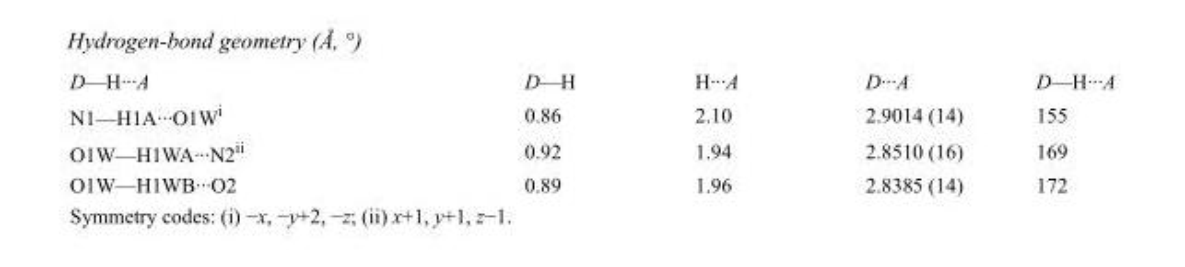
<table><tbody><tr><td>D—H···A</td><td>D—H</td><td>H···A</td><td>D···A</td><td>D—H···A</td></tr><tr><td>N1—H1A···O1W<sup>i</sup></td><td>0.86</td><td>2.10</td><td>2.9014 (14)</td><td>155</td></tr><tr><td>O1W—H1WA···N2<sup>ii</sup></td><td>0.92</td><td>1.94</td><td>2.8510 (16)</td><td>169</td></tr><tr><td>O1W—H1WB···O2</td><td>0.89</td><td>1.96</td><td>2.8385 (14)</td><td>172</td></tr></tbody></table>